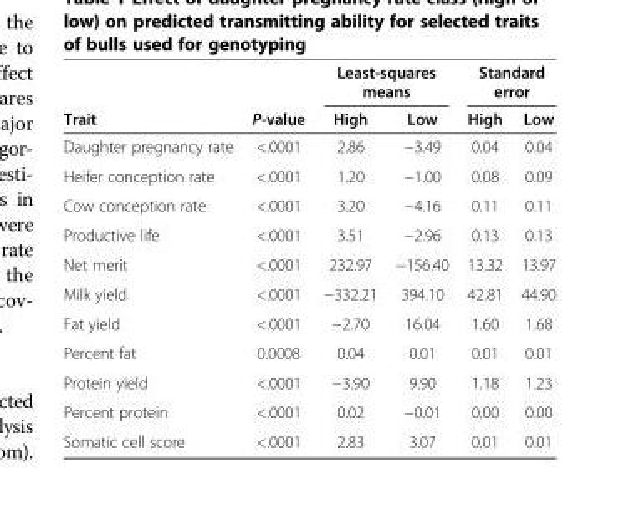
<table><thead><tr><td rowspan="2">Trait</td><td rowspan="2">P-value</td><td colspan="2">Least-squares means</td><td colspan="2">Standard error</td></tr><tr><td>High</td><td>Low</td><td>High</td><td>Low</td></tr></thead><tbody><tr><td>Daughter pregnancy rate</td><td>&lt;.0001</td><td>2.86</td><td>−3.49</td><td>0.04</td><td>0.04</td></tr><tr><td>Heifer conception rate</td><td>&lt;.0001</td><td>1.20</td><td>−1.00</td><td>0.08</td><td>0.09</td></tr><tr><td>Cow conception rate</td><td>&lt;.0001</td><td>3.20</td><td>−4.16</td><td>0.11</td><td>0.11</td></tr><tr><td>Productive life</td><td>&lt;.0001</td><td>3.51</td><td>−2.96</td><td>0.13</td><td>0.13</td></tr><tr><td>Net merit</td><td>&lt;.0001</td><td>232.97</td><td>−156.40</td><td>13.32</td><td>13.97</td></tr><tr><td>Milk yield</td><td>&lt;.0001</td><td>−332.21</td><td>394.10</td><td>42.81</td><td>44.90</td></tr><tr><td>Fat yield</td><td>&lt;.0001</td><td>−2.70</td><td>16.04</td><td>1.60</td><td>1.68</td></tr><tr><td>Percent fat</td><td>0.0008</td><td>0.04</td><td>0.01</td><td>0.01</td><td>0.01</td></tr><tr><td>Protein yield</td><td>&lt;.0001</td><td>−3.90</td><td>9.90</td><td>1.18</td><td>1.23</td></tr><tr><td>Percent protein</td><td>&lt;.0001</td><td>0.02</td><td>−0.01</td><td>0.00</td><td>0.00</td></tr><tr><td>Somatic cell score</td><td>&lt;.0001</td><td>2.83</td><td>3.07</td><td>0.01</td><td>0.01</td></tr></tbody></table>